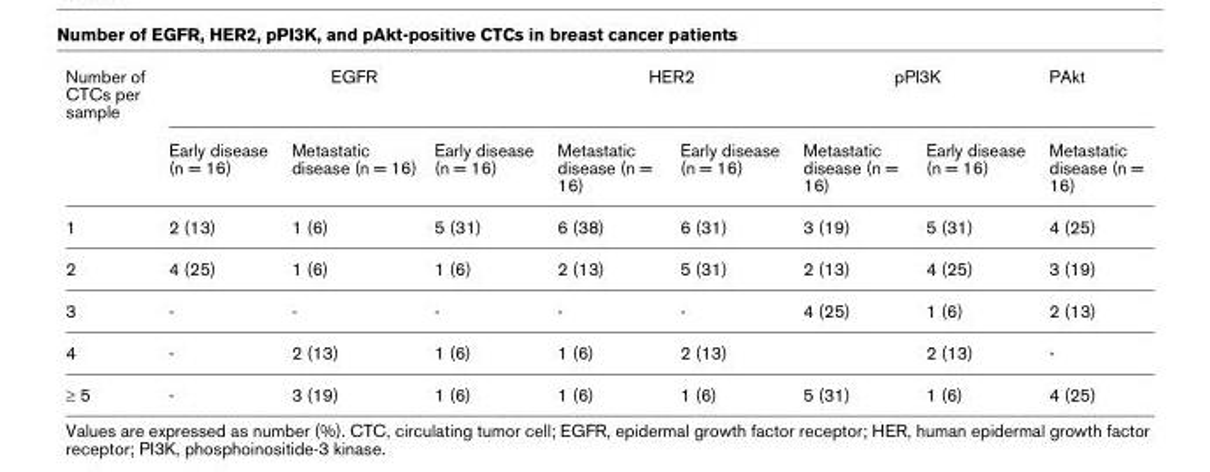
<table><thead><tr><td rowspan="2">Number of CTCs per sample</td><td colspan="3">EGFR</td><td colspan="2">HER2</td><td colspan="2">pPI3K</td><td rowspan="2">PAkt Metastatic disease (n = 16)</td></tr><tr><td>Early disease (n = 16)</td><td>Metastatic disease (n = 16)</td><td>Early disease (n = 16)</td><td>Metastatic disease (n = 16)</td><td>Early disease (n = 16)</td><td>Metastatic disease (n = 16)</td><td>Early disease (n = 16)</td></tr></thead><tbody><tr><td>1</td><td>2 (13)</td><td>1 (6)</td><td>5 (31)</td><td>6 (38)</td><td>6 (31)</td><td>3 (19)</td><td>5 (31)</td><td>4 (25)</td></tr><tr><td>2</td><td>4 (25)</td><td>1 (6)</td><td>1 (6)</td><td>2 (13)</td><td>5 (31)</td><td>2 (13)</td><td>4 (25)</td><td>3 (19)</td></tr><tr><td>3</td><td>-</td><td>-</td><td>-</td><td>-</td><td>-</td><td>4 (25)</td><td>1 (6)</td><td>2 (13)</td></tr><tr><td>4</td><td>-</td><td>2 (13)</td><td>1 (6)</td><td>1 (6)</td><td>2 (13)</td><td></td><td>2 (13)</td><td>-</td></tr><tr><td>≥ 5</td><td>-</td><td>3 (19)</td><td>1 (6)</td><td>1 (6)</td><td>1 (6)</td><td>5 (31)</td><td>1 (6)</td><td>4 (25)</td></tr></tbody></table>